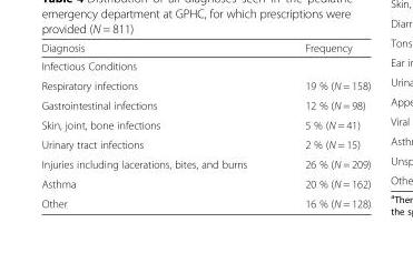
<table><thead><tr><td>Diagnosis</td><td>Frequency</td></tr></thead><tbody><tr><td colspan="2">Infectious Conditions</td></tr><tr><td>Respiratory infections</td><td>19 % (N = 158)</td></tr><tr><td>Gastrointestinal infections</td><td>12 % (N = 98)</td></tr><tr><td>Skin, joint, bone infections</td><td>5 % (N = 41)</td></tr><tr><td>Urinary tract infections</td><td>2 % (N = 15)</td></tr><tr><td>Injuries including lacerations, bites, and burns</td><td>26 % (N = 209)</td></tr><tr><td>Asthma</td><td>20 % (N = 162)</td></tr><tr><td>Other</td><td>16 % (N = 128)</td></tr></tbody></table>